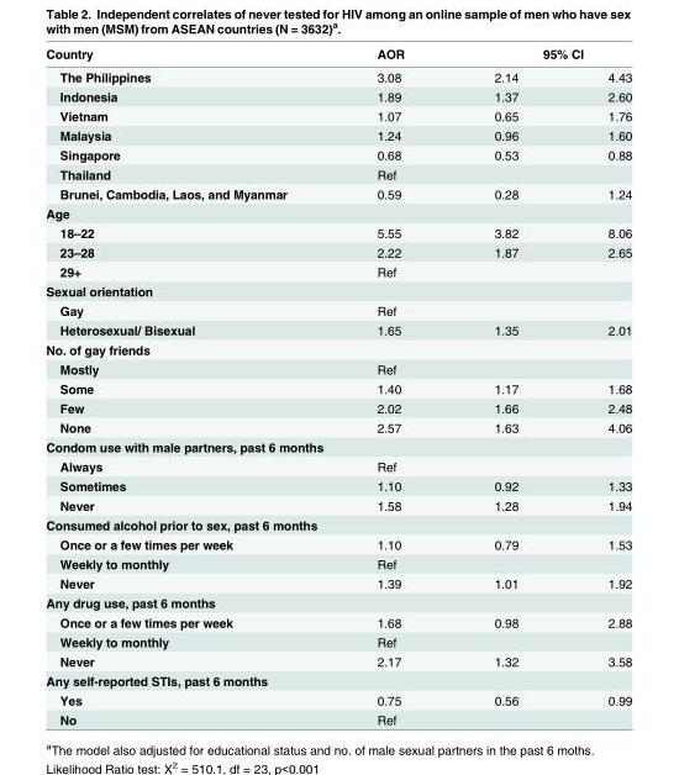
<table><thead><tr><td rowspan="2">Country The Philippines</td><td rowspan="2">AOR 3.08</td><td colspan="2">95% CI</td></tr><tr><td>2.14</td><td>4.43</td></tr></thead><tbody><tr><td>Indonesia</td><td>1.89</td><td>1.37</td><td>2.60</td></tr><tr><td>Vietnam</td><td>1.07</td><td>0.65</td><td>1.76</td></tr><tr><td>Malaysia</td><td>1.24</td><td>0.96</td><td>1.60</td></tr><tr><td>Singapore</td><td>0.68</td><td>0.53</td><td>0.88</td></tr><tr><td>Thailand</td><td>Ref</td><td></td><td></td></tr><tr><td>Brunei, Cambodia, Laos, and Myanmar</td><td>0.59</td><td>0.28</td><td>1.24</td></tr><tr><td colspan="4">Age</td></tr><tr><td>18–22</td><td>5.55</td><td>3.82</td><td>8.06</td></tr><tr><td>23–28</td><td>2.22</td><td>1.87</td><td>2.65</td></tr><tr><td>29+</td><td>Ref</td><td></td><td></td></tr><tr><td colspan="4">Sexual orientation</td></tr><tr><td>Gay</td><td>Ref</td><td></td><td></td></tr><tr><td>Heterosexual/ Bisexual</td><td>1.65</td><td>1.35</td><td>2.01</td></tr><tr><td colspan="4">No. of gay friends</td></tr><tr><td>Mostly</td><td>Ref</td><td></td><td></td></tr><tr><td>Some</td><td>1.40</td><td>1.17</td><td>1.68</td></tr><tr><td>Few</td><td>2.02</td><td>1.66</td><td>2.48</td></tr><tr><td>None</td><td>2.57</td><td>1.63</td><td>4.06</td></tr><tr><td colspan="4">Condom use with male partners, past 6 months</td></tr><tr><td>Always</td><td>Ref</td><td></td><td></td></tr><tr><td>Sometimes</td><td>1.10</td><td>0.92</td><td>1.33</td></tr><tr><td>Never</td><td>1.58</td><td>1.28</td><td>1.94</td></tr><tr><td colspan="4">Consumed alcohol prior to sex, past 6 months</td></tr><tr><td>Once or a few times per week</td><td>1.10</td><td>0.79</td><td>1.53</td></tr><tr><td>Weekly to monthly</td><td>Ref</td><td></td><td></td></tr><tr><td>Never</td><td>1.39</td><td>1.01</td><td>1.92</td></tr><tr><td colspan="4">Any drug use, past 6 months</td></tr><tr><td>Once or a few times per week</td><td>1.68</td><td>0.98</td><td>2.88</td></tr><tr><td>Weekly to monthly</td><td>Ref</td><td></td><td></td></tr><tr><td>Never</td><td>2.17</td><td>1.32</td><td>3.58</td></tr><tr><td colspan="4">Any self-reported STIs, past 6 months</td></tr><tr><td>Yes</td><td>0.75</td><td>0.56</td><td>0.99</td></tr><tr><td>No</td><td>Ref</td><td></td><td></td></tr></tbody></table>